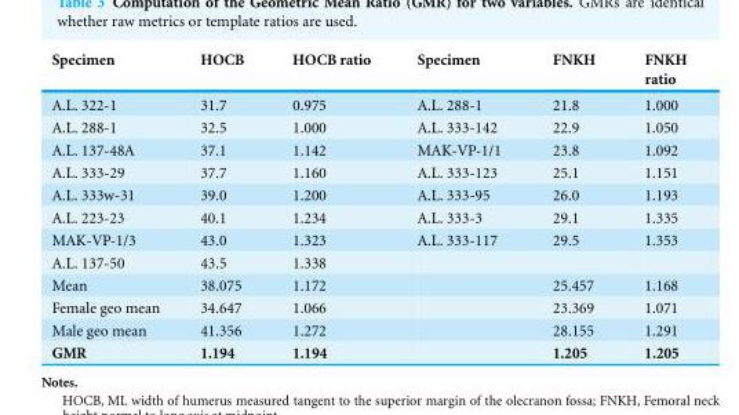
<table><thead><tr><td>Specimen</td><td>HOCB</td><td>HOCB ratio</td><td>Specimen</td><td>FNKH</td><td>FNKH ratio</td></tr></thead><tbody><tr><td>A.L. 322-1</td><td>31.7</td><td>0.975</td><td>A.L. 288-1</td><td>21.8</td><td>1.000</td></tr><tr><td>A.L. 288-1</td><td>32.5</td><td>1.000</td><td>A.L. 333-142</td><td>22.9</td><td>1.050</td></tr><tr><td>A.L. 137-48A</td><td>37.1</td><td>1.142</td><td>MAK-VP-1/1</td><td>23.8</td><td>1.092</td></tr><tr><td>A.L. 333-29</td><td>37.7</td><td>1.160</td><td>A.L. 333-123</td><td>25.1</td><td>1.151</td></tr><tr><td>A.L. 333w-31</td><td>39.0</td><td>1.200</td><td>A.L. 333-95</td><td>26.0</td><td>1.193</td></tr><tr><td>A.L. 223-23</td><td>40.1</td><td>1.234</td><td>A.L. 333-3</td><td>29.1</td><td>1.335</td></tr><tr><td>MAK-VP-1/3</td><td>43.0</td><td>1.323</td><td>A.L. 333-117</td><td>29.5</td><td>1.353</td></tr><tr><td>A.L. 137-50</td><td>43.5</td><td>1.338</td><td></td><td></td><td></td></tr><tr><td>Mean</td><td>38.075</td><td>1.172</td><td></td><td>25.457</td><td>1.168</td></tr><tr><td>Female geo mean</td><td>34.647</td><td>1.066</td><td></td><td>23.369</td><td>1.071</td></tr><tr><td>Male geo mean</td><td>41.356</td><td>1.272</td><td></td><td>28.155</td><td>1.291</td></tr><tr><td>GMR</td><td>1.194</td><td>1.194</td><td></td><td>1.205</td><td>1.205</td></tr></tbody></table>